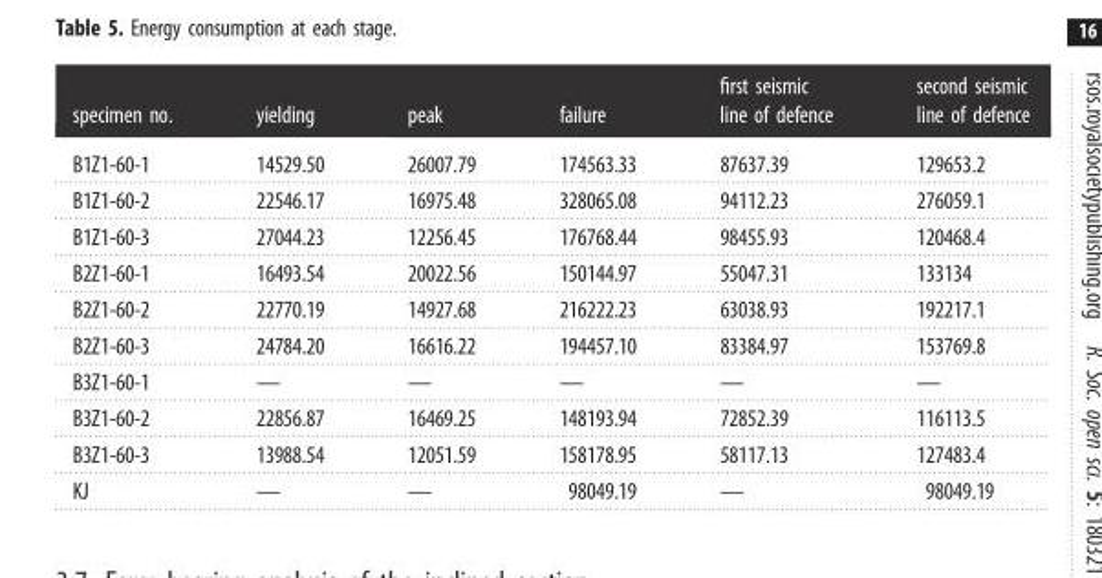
<table><thead><tr><td>specimen no.</td><td>yielding</td><td>peak</td><td>failure</td><td>first seismic line of defence</td><td>second seismic line of defence</td></tr></thead><tbody><tr><td>B1Z1-60-1</td><td>14529.50</td><td>26007.79</td><td>174563.33</td><td>87637.39</td><td>129653.2</td></tr><tr><td>B1Z1-60-2</td><td>22546.17</td><td>16975.48</td><td>328065.08</td><td>94112.23</td><td>276059.1</td></tr><tr><td>B1Z1-60-3</td><td>27044.23</td><td>12256.45</td><td>176768.44</td><td>98455.93</td><td>120468.4</td></tr><tr><td>B2Z1-60-1</td><td>16493.54</td><td>20022.56</td><td>150144.97</td><td>55047.31</td><td>133134</td></tr><tr><td>B2Z1-60-2</td><td>22770.19</td><td>14927.68</td><td>216222.23</td><td>63038.93</td><td>192217.1</td></tr><tr><td>B2Z1-60-3</td><td>24784.20</td><td>16616.22</td><td>194457.10</td><td>83384.97</td><td>153769.8</td></tr><tr><td>B3Z1-60-1</td><td>—</td><td>—</td><td>—</td><td>—</td><td>—</td></tr><tr><td>B3Z1-60-2</td><td>22856.87</td><td>16469.25</td><td>148193.94</td><td>72852.39</td><td>116113.5</td></tr><tr><td>B3Z1-60-3</td><td>13988.54</td><td>12051.59</td><td>158178.95</td><td>58117.13</td><td>127483.4</td></tr><tr><td>KJ</td><td>—</td><td>—</td><td>98049.19</td><td>—</td><td>98049.19</td></tr></tbody></table>